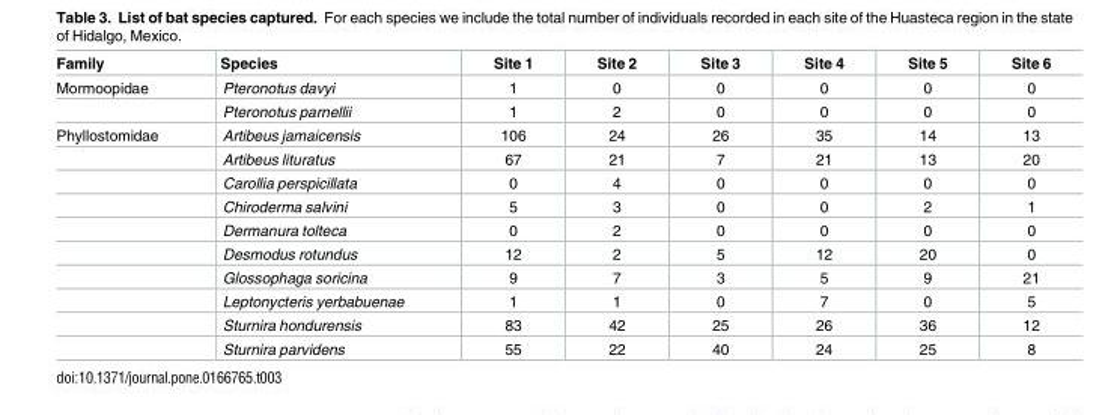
<table><thead><tr><td>Family</td><td>Species</td><td>Site 1</td><td>Site 2</td><td>Site 3</td><td>Site 4</td><td>Site 5</td><td>Site 6</td></tr></thead><tbody><tr><td rowspan="2">Mormoopidae</td><td>Pteronotus davyi</td><td>1</td><td>0</td><td>0</td><td>0</td><td>0</td><td>0</td></tr><tr><td>Pteronotus parnellii</td><td>1</td><td>2</td><td>0</td><td>0</td><td>0</td><td>0</td></tr><tr><td rowspan="10">Phyllostomidae</td><td>Artibeus jamaicensis</td><td>106</td><td>24</td><td>26</td><td>35</td><td>14</td><td>13</td></tr><tr><td>Artibeus lituratus</td><td>67</td><td>21</td><td>7</td><td>21</td><td>13</td><td>20</td></tr><tr><td>Carollia perspicillata</td><td>0</td><td>4</td><td>0</td><td>0</td><td>0</td><td>0</td></tr><tr><td>Chiroderma salvini</td><td>5</td><td>3</td><td>0</td><td>0</td><td>2</td><td>1</td></tr><tr><td>Dermanura tolteca</td><td>0</td><td>2</td><td>0</td><td>0</td><td>0</td><td>0</td></tr><tr><td>Desmodus rotundus</td><td>12</td><td>2</td><td>5</td><td>12</td><td>20</td><td>0</td></tr><tr><td>Glossophaga soricina</td><td>9</td><td>7</td><td>3</td><td>5</td><td>9</td><td>21</td></tr><tr><td>Leptonycteris yerbabuenae</td><td>1</td><td>1</td><td>0</td><td>7</td><td>0</td><td>5</td></tr><tr><td>Sturnira hondurensis</td><td>83</td><td>42</td><td>25</td><td>26</td><td>36</td><td>12</td></tr><tr><td>Sturnira parvidens</td><td>55</td><td>22</td><td>40</td><td>24</td><td>25</td><td>8</td></tr></tbody></table>